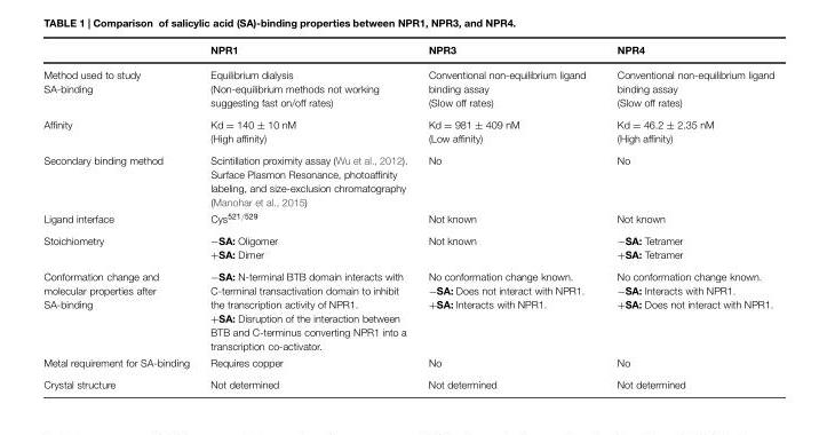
<table><thead><tr><td></td><td>NPR1</td><td>NPR3</td><td>NPR4</td></tr></thead><tbody><tr><td>Method used to study SA-binding</td><td>Equilibrium dialysis (Non-equilibrium methods not working suggesting fast on/off rates)</td><td>Conventional non-equilibrium ligand binding assay (Slow off rates)</td><td>Conventional non-equilibrium ligand binding assay (Slow off rates)</td></tr><tr><td>Affinity</td><td>Kd = 140 ± 10 nM (High affinity)</td><td>Kd = 981 ± 409 nM (Low affinity)</td><td>Kd = 46.2 ± 2.35 nM (High affinity)</td></tr><tr><td>Secondary binding method</td><td>Scintillation proximity assay (Wu et al., 2012). Surface Plasmon Resonance, photoaffinity labeling, and size-exclusion chromatography (Manohar et al., 2015)</td><td>No</td><td>No</td></tr><tr><td>Ligand interface</td><td>Cys<sup>521/529</sup></td><td>Not known</td><td>Not known</td></tr><tr><td>Stoichiometry</td><td>−SA: Oligomer +SA: Dimer</td><td>Not known</td><td>−SA: Tetramer +SA: Tetramer</td></tr><tr><td>Conformation change and molecular properties after SA-binding</td><td>−SA: N-terminal BTB domain interacts with C-terminal transactivation domain to inhibit the transcription activity of NPR1. +SA: Disruption of the interaction between BTB and C-terminus converting NPR1 into a transcription co-activator.</td><td>No conformation change known. −SA: Does not interact with NPR1. +SA: Interacts with NPR1.</td><td>No conformation change known. −SA: Interacts with NPR1. +SA: Does not interact with NPR1.</td></tr><tr><td>Metal requirement for SA-binding</td><td>Requires copper</td><td>No</td><td>No</td></tr><tr><td>Crystal structure</td><td>Not determined</td><td>Not determined</td><td>Not determined</td></tr></tbody></table>